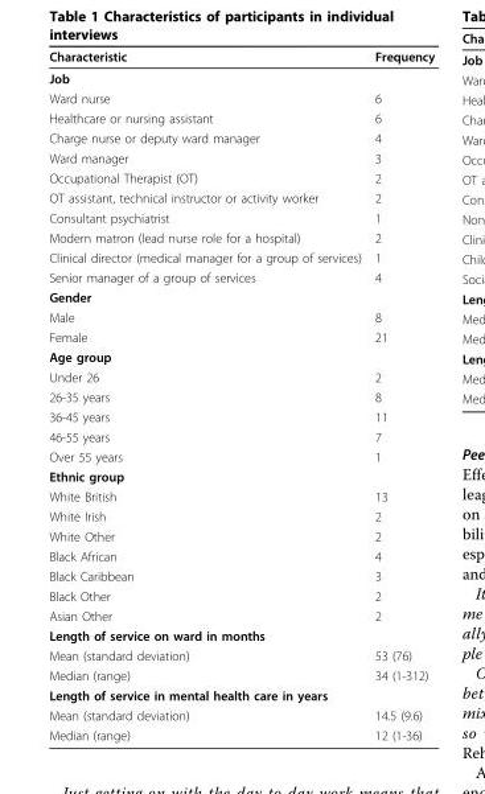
<table><thead><tr><td>Characteristic</td><td>Frequency</td></tr></thead><tbody><tr><td colspan="2">Job</td></tr><tr><td>Ward nurse</td><td>6</td></tr><tr><td>Healthcare or nursing assistant</td><td>6</td></tr><tr><td>Charge nurse or deputy ward manager</td><td>4</td></tr><tr><td>Ward manager</td><td>3</td></tr><tr><td>Occupational Therapist (OT)</td><td>2</td></tr><tr><td>OT assistant, technical instructor or activity worker</td><td>2</td></tr><tr><td>Consultant psychiatrist</td><td>1</td></tr><tr><td>Modern matron (lead nurse role for a hospital)</td><td>2</td></tr><tr><td>Clinical director (medical manager for a group of services)</td><td>1</td></tr><tr><td>Senior manager of a group of services</td><td>4</td></tr><tr><td colspan="2">Gender</td></tr><tr><td>Male</td><td>8</td></tr><tr><td>Female</td><td>21</td></tr><tr><td colspan="2">Age group</td></tr><tr><td>Under 26</td><td>2</td></tr><tr><td>26-35 years</td><td>8</td></tr><tr><td>36-45 years</td><td>11</td></tr><tr><td>46-55 years</td><td>7</td></tr><tr><td>Over 55 years</td><td>1</td></tr><tr><td colspan="2">Ethnic group</td></tr><tr><td>White British</td><td>13</td></tr><tr><td>White Irish</td><td>2</td></tr><tr><td>White Other</td><td>2</td></tr><tr><td>Black African</td><td>4</td></tr><tr><td>Black Caribbean</td><td>3</td></tr><tr><td>Black Other</td><td>2</td></tr><tr><td>Asian Other</td><td>2</td></tr><tr><td colspan="2">Length of service on ward in months</td></tr><tr><td>Mean (standard deviation)</td><td>53 (76)</td></tr><tr><td>Median (range)</td><td>34 (1-312)</td></tr><tr><td colspan="2">Length of service in mental health care in years</td></tr><tr><td>Mean (standard deviation)</td><td>14.5 (9.6)</td></tr><tr><td>Median (range)</td><td>12 (1-36)</td></tr></tbody></table>